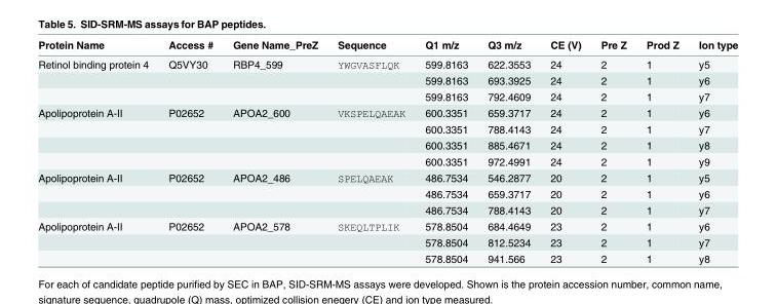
<table><thead><tr><td>Protein Name</td><td>Access #</td><td>Gene Name_PreZ</td><td>Sequence</td><td>Q1 m/z</td><td>Q3 m/z</td><td>CE (V)</td><td>Pre Z</td><td>Prod Z</td><td>Ion type</td></tr></thead><tbody><tr><td rowspan="3">Retinol binding protein 4</td><td>Q5VY30</td><td>RBP4_599</td><td>YWGVASFLQK</td><td>599.8163</td><td>622.3553</td><td>24</td><td>2</td><td>1</td><td>y5</td></tr><tr><td></td><td></td><td></td><td>599.8163</td><td>693.3925</td><td>24</td><td>2</td><td>1</td><td>y6</td></tr><tr><td></td><td></td><td></td><td>599.8163</td><td>792.4609</td><td>24</td><td>2</td><td>1</td><td>y7</td></tr><tr><td rowspan="4">Apolipoprotein A-II</td><td>P02652</td><td>APOA2_600</td><td>VKSPELQAEAK</td><td>600.3351</td><td>659.3717</td><td>24</td><td>2</td><td>1</td><td>y6</td></tr><tr><td></td><td></td><td></td><td>600.3351</td><td>788.4143</td><td>24</td><td>2</td><td>1</td><td>y7</td></tr><tr><td></td><td></td><td></td><td>600.3351</td><td>885.4671</td><td>24</td><td>2</td><td>1</td><td>y8</td></tr><tr><td></td><td></td><td></td><td>600.3351</td><td>972.4991</td><td>24</td><td>2</td><td>1</td><td>y9</td></tr><tr><td rowspan="3">Apolipoprotein A-II</td><td>P02652</td><td>APOA2_486</td><td>SPELQAEAK</td><td>486.7534</td><td>546.2877</td><td>20</td><td>2</td><td>1</td><td>y5</td></tr><tr><td></td><td></td><td></td><td>486.7534</td><td>659.3717</td><td>20</td><td>2</td><td>1</td><td>y6</td></tr><tr><td></td><td></td><td></td><td>486.7534</td><td>788.4143</td><td>20</td><td>2</td><td>1</td><td>y7</td></tr><tr><td rowspan="3">Apolipoprotein A-II</td><td>P02652</td><td>APOA2_578</td><td>SKEQLTPLIK</td><td>578.8504</td><td>684.4649</td><td>23</td><td>2</td><td>1</td><td>y6</td></tr><tr><td></td><td></td><td></td><td>578.8504</td><td>812.5234</td><td>23</td><td>2</td><td>1</td><td>y7</td></tr><tr><td></td><td></td><td></td><td>578.8504</td><td>941.566</td><td>23</td><td>2</td><td>1</td><td>y8</td></tr></tbody></table>